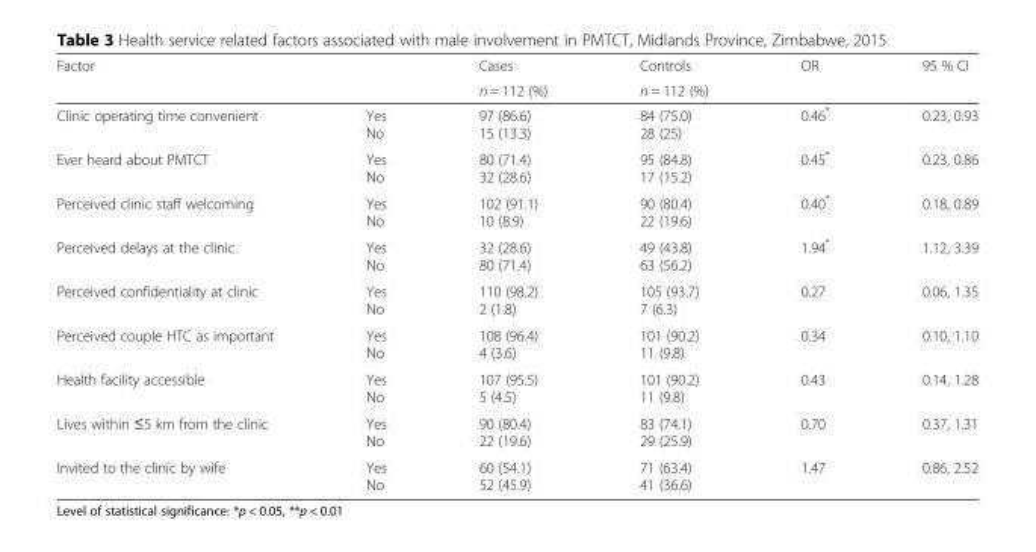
<table><thead><tr><td rowspan="2">Factor</td><td rowspan="2"></td><td rowspan="2">Cases n = 112 (%)</td><td rowspan="2">Controls n = 112 (%)</td><td rowspan="2">OR</td><td rowspan="2">95 % CI</td></tr><tr></tr></thead><tbody><tr><td>Clinic operating time convenient</td><td>Yes No</td><td>97 (86.6) 15 (13.3)</td><td>84 (75.0) 28 (25)</td><td>0.46*</td><td>0.23, 0.93</td></tr><tr><td>Ever heard about PMTCT</td><td>Yes No</td><td>80 (71.4) 32 (28.6)</td><td>95 (84.8) 17 (15.2)</td><td>0.45*</td><td>0.23, 0.86</td></tr><tr><td>Perceived clinic staff welcoming</td><td>Yes No</td><td>102 (91.1) 10 (8.9)</td><td>90 (80.4) 22 (19.6)</td><td>0.40*</td><td>0.18, 0.89</td></tr><tr><td>Perceived delays at the clinic</td><td>Yes No</td><td>32 (28.6) 80 (71.4)</td><td>49 (43.8) 63 (56.2)</td><td>1.94*</td><td>1.12, 3.39</td></tr><tr><td>Perceived confidentiality at clinic</td><td>Yes No</td><td>110 (98.2) 2 (1.8)</td><td>105 (93.7) 7 (6.3)</td><td>0.27</td><td>0.06, 1.35</td></tr><tr><td>Perceived couple HTC as important</td><td>Yes No</td><td>108 (96.4) 4 (3.6)</td><td>101 (90.2) 11 (9.8)</td><td>0.34</td><td>0.10, 1.10</td></tr><tr><td>Health facility accessible</td><td>Yes No</td><td>107 (95.5) 5 (4.5)</td><td>101 (90.2) 11 (9.8)</td><td>0.43</td><td>0.14, 1.28</td></tr><tr><td>Lives within ≤5 km from the clinic</td><td>Yes No</td><td>90 (80.4) 22 (19.6)</td><td>83 (74.1) 29 (25.9)</td><td>0.70</td><td>0.37, 1.31</td></tr><tr><td>Invited to the clinic by wife</td><td>Yes No</td><td>60 (54.1) 52 (45.9)</td><td>71 (63.4) 41 (36.6)</td><td>1.47</td><td>0.86, 2.52</td></tr></tbody></table>